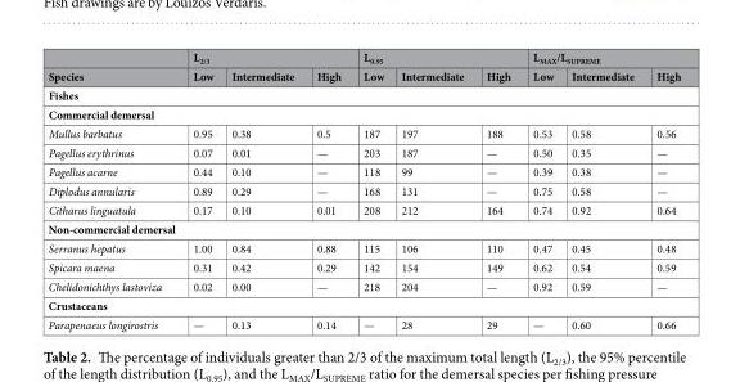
<table><thead><tr><td rowspan="2">Species</td><td colspan="3">L<sub>2/3</sub></td><td colspan="3">L<sub>0.95</sub></td><td colspan="3">L<sub>MAX</sub>/L<sub>SUPREME</sub></td></tr><tr><td>Low</td><td>Intermediate</td><td>High</td><td>Low</td><td>Intermediate</td><td>High</td><td>Low</td><td>Intermediate</td><td>High</td></tr></thead><tbody><tr><td colspan="10">Fishes</td></tr><tr><td colspan="10">Commercial demersal</td></tr><tr><td>Mullus barbatus</td><td>0.95</td><td>0.38</td><td>0.5</td><td>187</td><td>197</td><td>188</td><td>0.53</td><td>0.58</td><td>0.56</td></tr><tr><td>Pagellus erythrinus</td><td>0.07</td><td>0.01</td><td>—</td><td>203</td><td>187</td><td>—</td><td>0.50</td><td>0.35</td><td>—</td></tr><tr><td>Pagellus acarne</td><td>0.44</td><td>0.10</td><td>—</td><td>118</td><td>99</td><td>—</td><td>0.39</td><td>0.38</td><td>—</td></tr><tr><td>Diplodus annularis</td><td>0.89</td><td>0.29</td><td>—</td><td>168</td><td>131</td><td>—</td><td>0.75</td><td>0.58</td><td>—</td></tr><tr><td>Citharus linguatula</td><td>0.17</td><td>0.10</td><td>0.01</td><td>208</td><td>212</td><td>164</td><td>0.74</td><td>0.92</td><td>0.64</td></tr><tr><td colspan="10">Non-commercial demersal</td></tr><tr><td>Serranus hepatus</td><td>1.00</td><td>0.84</td><td>0.88</td><td>115</td><td>106</td><td>110</td><td>0.47</td><td>0.45</td><td>0.48</td></tr><tr><td>Spicara maena</td><td>0.31</td><td>0.42</td><td>0.29</td><td>142</td><td>154</td><td>149</td><td>0.62</td><td>0.54</td><td>0.59</td></tr><tr><td>Chelidonichthys lastoviza</td><td>0.02</td><td>0.00</td><td>—</td><td>218</td><td>204</td><td>—</td><td>0.92</td><td>0.59</td><td>—</td></tr><tr><td colspan="10">Crustaceans</td></tr><tr><td>Parapenaeus longirostris</td><td>—</td><td>0.13</td><td>0.14</td><td>—</td><td>28</td><td>29</td><td>—</td><td>0.60</td><td>0.66</td></tr></tbody></table>